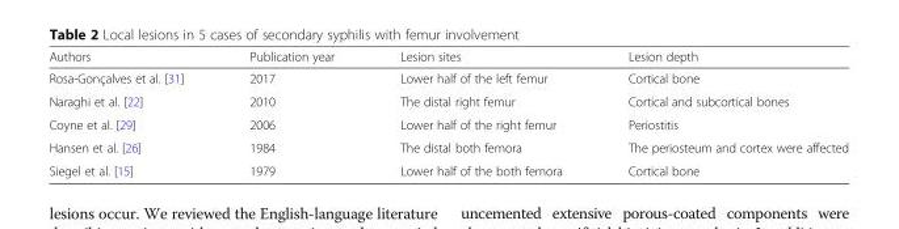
<table><thead><tr><td>Authors</td><td>Publication year</td><td>Lesion sites</td><td>Lesion depth</td></tr></thead><tbody><tr><td>Rosa-Gonçalves et al. [31]</td><td>2017</td><td>Lower half of the left femur</td><td>Cortical bone</td></tr><tr><td>Naraghi et al. [22]</td><td>2010</td><td>The distal right femur</td><td>Cortical and subcortical bones</td></tr><tr><td>Coyne et al. [29]</td><td>2006</td><td>Lower half of the right femur</td><td>Periostitis</td></tr><tr><td>Hansen et al. [26]</td><td>1984</td><td>The distal both femora</td><td>The periosteum and cortex were affected</td></tr><tr><td>Siegel et al. [15]</td><td>1979</td><td>Lower half of the both femora</td><td>Cortical bone</td></tr></tbody></table>